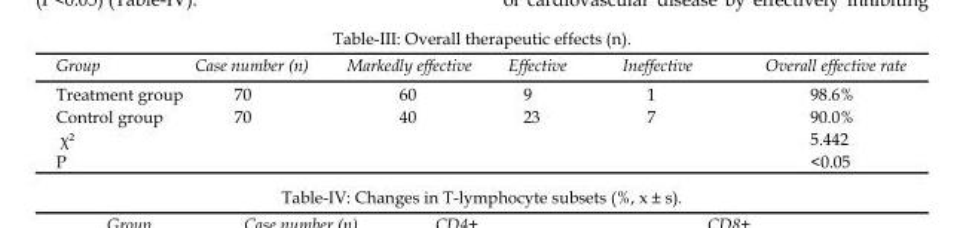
<table><tbody><tr><td>Group</td><td>Case number (n)</td><td>Markedly effective</td><td>Effective</td><td>Ineffective</td><td>Overall effective rate</td></tr><tr><td>Treatment group</td><td>70</td><td>60</td><td>9</td><td>1</td><td>98.6%</td></tr><tr><td>Control group</td><td>70</td><td>40</td><td>23</td><td>7</td><td>90.0%</td></tr><tr><td>χ²</td><td></td><td></td><td></td><td></td><td>5.442</td></tr><tr><td>P</td><td></td><td></td><td></td><td></td><td>&lt;0.05</td></tr></tbody></table>